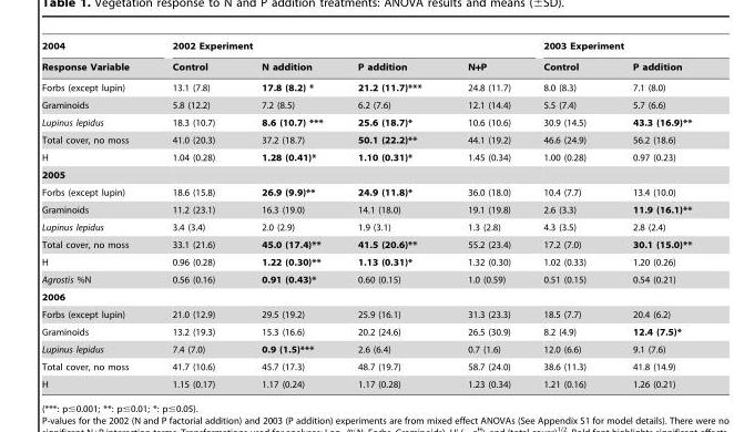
<table><thead><tr><td rowspan="2">2004 Response Variable</td><td colspan="4">2002 Experiment</td><td colspan="2">2003 Experiment</td></tr><tr><td>Control</td><td>N addition</td><td>P addition</td><td>N+P</td><td>Control</td><td>P addition</td></tr></thead><tbody><tr><td>Forbs (except lupin)</td><td>13.1 (7.8)</td><td>17.8 (8.2) *</td><td>21.2 (11.7)***</td><td>24.8 (11.7)</td><td>8.0 (8.3)</td><td>7.1 (8.0)</td></tr><tr><td>Graminoids</td><td>5.8 (12.2)</td><td>7.2 (8.5)</td><td>6.2 (7.6)</td><td>12.1 (14.4)</td><td>5.5 (7.4)</td><td>5.7 (6.6)</td></tr><tr><td>Lupinus lepidus</td><td>18.3 (10.7)</td><td>8.6 (10.7) ***</td><td>25.6 (18.7)*</td><td>10.6 (10.6)</td><td>30.9 (14.5)</td><td>43.3 (16.9)**</td></tr><tr><td>Total cover, no moss</td><td>41.0 (20.3)</td><td>37.2 (18.7)</td><td>50.1 (22.2)**</td><td>44.1 (19.2)</td><td>46.6 (24.9)</td><td>56.2 (18.6)</td></tr><tr><td>H</td><td>1.04 (0.28)</td><td>1.28 (0.41)*</td><td>1.10 (0.31)*</td><td>1.45 (0.34)</td><td>1.00 (0.28)</td><td>0.97 (0.23)</td></tr><tr><td colspan="7">2005</td></tr><tr><td>Forbs (except lupin)</td><td>18.6 (15.8)</td><td>26.9 (9.9)**</td><td>24.9 (11.8)*</td><td>36.0 (18.0)</td><td>10.4 (7.7)</td><td>13.4 (10.0)</td></tr><tr><td>Graminoids</td><td>11.2 (23.1)</td><td>16.3 (19.0)</td><td>14.1 (18.0)</td><td>19.1 (19.8)</td><td>2.6 (3.3)</td><td>11.9 (16.1)**</td></tr><tr><td>Lupinus lepidus</td><td>3.4 (3.4)</td><td>2.0 (2.9)</td><td>1.9 (3.1)</td><td>1.3 (2.8)</td><td>4.3 (3.5)</td><td>2.8 (2.4)</td></tr><tr><td>Total cover, no moss</td><td>33.1 (21.6)</td><td>45.0 (17.4)**</td><td>41.5 (20.6)**</td><td>55.2 (23.4)</td><td>17.2 (7.0)</td><td>30.1 (15.0)**</td></tr><tr><td>H</td><td>0.96 (0.28)</td><td>1.22 (0.30)**</td><td>1.13 (0.31)*</td><td>1.32 (0.30)</td><td>1.02 (0.33)</td><td>1.20 (0.26)</td></tr><tr><td>Agrostis %N</td><td>0.56 (0.16)</td><td>0.91 (0.43)*</td><td>0.60 (0.15)</td><td>1.0 (0.59)</td><td>0.51 (0.15)</td><td>0.54 (0.21)</td></tr><tr><td colspan="7">2006</td></tr><tr><td>Forbs (except lupin)</td><td>21.0 (12.9)</td><td>29.5 (19.2)</td><td>25.9 (16.1)</td><td>31.3 (23.3)</td><td>18.5 (7.7)</td><td>20.4 (6.2)</td></tr><tr><td>Graminoids</td><td>13.2 (19.3)</td><td>15.3 (16.6)</td><td>20.2 (24.6)</td><td>26.5 (30.9)</td><td>8.2 (4.9)</td><td>12.4 (7.5)*</td></tr><tr><td>Lupinus lepidus</td><td>7.4 (7.0)</td><td>0.9 (1.5)***</td><td>2.6 (6.4)</td><td>0.7 (1.6)</td><td>12.0 (6.6)</td><td>9.1 (7.6)</td></tr><tr><td>Total cover, no moss</td><td>41.7 (10.6)</td><td>45.7 (17.3)</td><td>48.7 (19.7)</td><td>58.7 (24.0)</td><td>38.6 (11.3)</td><td>41.8 (14.9)</td></tr><tr><td>H</td><td>1.15 (0.17)</td><td>1.17 (0.24)</td><td>1.17 (0.28)</td><td>1.23 (0.34)</td><td>1.21 (0.16)</td><td>1.26 (0.21)</td></tr></tbody></table>